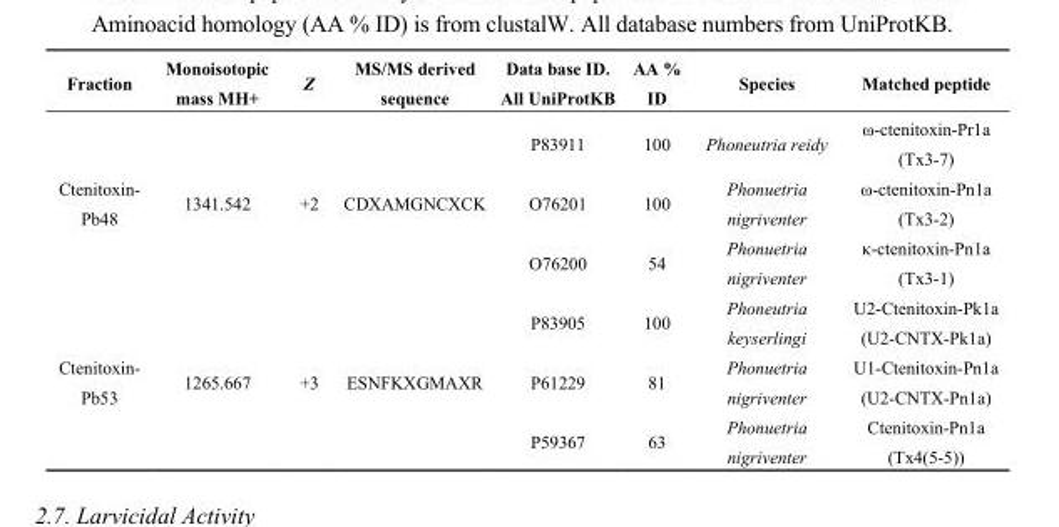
<table><thead><tr><td>Fraction</td><td>Monoisotopic mass MH+</td><td>Z</td><td>MS/MS derived sequence</td><td>Data base ID. All UniProtKB</td><td>AA % ID</td><td>Species</td><td>Matched peptide</td></tr></thead><tbody><tr><td rowspan="3">Ctenitoxin- Pb48</td><td rowspan="3">1341.542</td><td rowspan="3">+2</td><td rowspan="3">CDXAMGNCXCK</td><td>P83911</td><td>100</td><td>Phoneutria reidy</td><td>ω-ctenitoxin-Pr1a (Tx3-7)</td></tr><tr><td>O76201</td><td>100</td><td>Phonuetria nigriventer</td><td>ω-ctenitoxin-Pn1a (Tx3-2)</td></tr><tr><td>O76200</td><td>54</td><td>Phonuetria nigriventer</td><td>κ-ctenitoxin-Pn1a (Tx3-1)</td></tr><tr><td rowspan="3">Ctenitoxin- Pb53</td><td rowspan="3">1265.667</td><td rowspan="3">+3</td><td rowspan="3">ESNFKXGMAXR</td><td>P83905</td><td>100</td><td>Phoneutria keyserlingi</td><td>U2-Ctenitoxin-Pk1a (U2-CNTX-Pk1a)</td></tr><tr><td>P61229</td><td>81</td><td>Phonuetria nigriventer</td><td>U1-Ctenitoxin-Pn1a (U2-CNTX-Pn1a)</td></tr><tr><td>P59367</td><td>63</td><td>Phonuetria nigriventer</td><td>Ctenitoxin-Pn1a (Tx4(5-5))</td></tr></tbody></table>